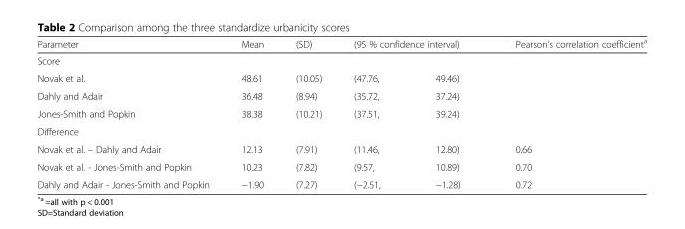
<table><thead><tr><td rowspan="2">Parameter Score</td><td rowspan="2">Mean</td><td rowspan="2">(SD)</td><td colspan="2">(95 % confidence interval)</td><td rowspan="2">Pearson’s correlation coefficient<sup>a</sup></td></tr><tr><td></td><td></td></tr></thead><tbody><tr><td>Novak et al.</td><td>48.61</td><td>(10.05)</td><td>(47.76,</td><td>49.46)</td><td></td></tr><tr><td>Dahly and Adair</td><td>36.48</td><td>(8.94)</td><td>(35.72,</td><td>37.24)</td><td></td></tr><tr><td>Jones-Smith and Popkin</td><td>38.38</td><td>(10.21)</td><td>(37.51,</td><td>39.24)</td><td></td></tr><tr><td colspan="6">Difference</td></tr><tr><td>Novak et al. – Dahly and Adair</td><td>12.13</td><td>(7.91)</td><td>(11.46,</td><td>12.80)</td><td>0.66</td></tr><tr><td>Novak et al. - Jones-Smith and Popkin</td><td>10.23</td><td>(7.82)</td><td>(9.57,</td><td>10.89)</td><td>0.70</td></tr><tr><td>Dahly and Adair - Jones-Smith and Popkin</td><td>−1.90</td><td>(7.27)</td><td>(−2.51,</td><td>−1.28)</td><td>0.72</td></tr></tbody></table>